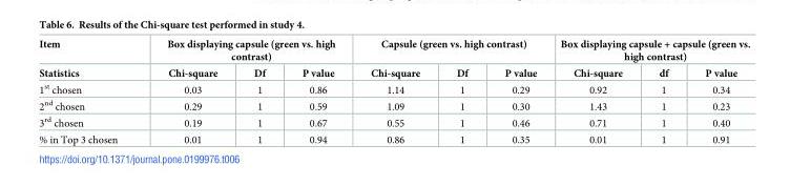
<table><thead><tr><td rowspan="2">Item Statistics</td><td colspan="3">Box displaying capsule (green vs. high contrast)</td><td colspan="3">Capsule (green vs. high contrast)</td><td colspan="3">Box displaying capsule + capsule (green vs. high contrast)</td></tr><tr><td>Chi-square</td><td>Df</td><td>P value</td><td>Chi-square</td><td>Df</td><td>P value</td><td>Chi-square</td><td>df</td><td>P value</td></tr></thead><tbody><tr><td>1<sup>st</sup> chosen</td><td>0.03</td><td>1</td><td>0.86</td><td>1.14</td><td>1</td><td>0.29</td><td>0.92</td><td>1</td><td>0.34</td></tr><tr><td>2<sup>nd</sup> chosen</td><td>0.29</td><td>1</td><td>0.59</td><td>1.09</td><td>1</td><td>0.30</td><td>1.43</td><td>1</td><td>0.23</td></tr><tr><td>3<sup>rd</sup> chosen</td><td>0.19</td><td>1</td><td>0.67</td><td>0.55</td><td>1</td><td>0.46</td><td>0.71</td><td>1</td><td>0.40</td></tr><tr><td>% in Top 3 chosen</td><td>0.01</td><td>1</td><td>0.94</td><td>0.86</td><td>1</td><td>0.35</td><td>0.01</td><td>1</td><td>0.91</td></tr></tbody></table>